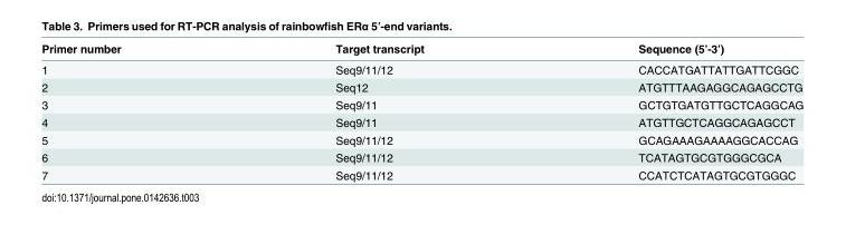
<table><thead><tr><td>Primer number</td><td>Target transcript</td><td>Sequence (5’-3’)</td></tr></thead><tbody><tr><td>1</td><td>Seq9/11/12</td><td>CACCATGATTATTGATTCGGC</td></tr><tr><td>2</td><td>Seq12</td><td>ATGTTTAAGAGGCAGAGCCTG</td></tr><tr><td>3</td><td>Seq9/11</td><td>GCTGTGATGTTGCTCAGGCAG</td></tr><tr><td>4</td><td>Seq9/11</td><td>ATGTTGCTCAGGCAGAGCCT</td></tr><tr><td>5</td><td>Seq9/11/12</td><td>GCAGAAAGAAAAGGCACCAG</td></tr><tr><td>6</td><td>Seq9/11/12</td><td>TCATAGTGCGTGGGCGCA</td></tr><tr><td>7</td><td>Seq9/11/12</td><td>CCATCTCATAGTGCGTGGGC</td></tr></tbody></table>